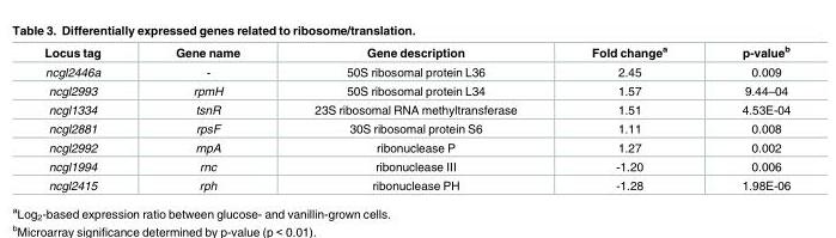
<table><thead><tr><td>Locus tag</td><td>Gene name</td><td>Gene description</td><td>Fold change<sup>a</sup></td><td>p-value<sup>b</sup></td></tr></thead><tbody><tr><td>ncgl2446a</td><td>-</td><td>50S ribosomal protein L36</td><td>2.45</td><td>0.009</td></tr><tr><td>ncgl2993</td><td>rpmH</td><td>50S ribosomal protein L34</td><td>1.57</td><td>9.44–04</td></tr><tr><td>ncgl1334</td><td>tsnR</td><td>23S ribosomal RNA methyltransferase</td><td>1.51</td><td>4.53E-04</td></tr><tr><td>ncgl2881</td><td>rpsF</td><td>30S ribosomal protein S6</td><td>1.11</td><td>0.008</td></tr><tr><td>ncgl2992</td><td>rnpA</td><td>ribonuclease P</td><td>1.27</td><td>0.002</td></tr><tr><td>ncgl1994</td><td>rnc</td><td>ribonuclease III</td><td>-1.20</td><td>0.006</td></tr><tr><td>ncgl2415</td><td>rph</td><td>ribonuclease PH</td><td>-1.28</td><td>1.98E-06</td></tr></tbody></table>